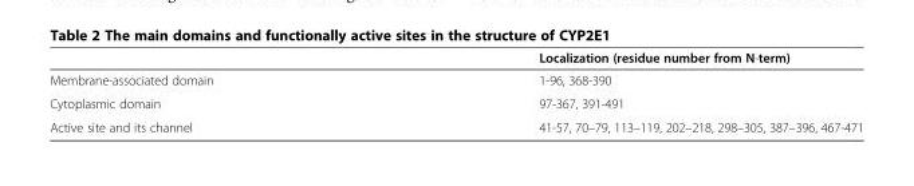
<table><thead><tr><td></td><td>Localization (residue number from N-term)</td></tr></thead><tbody><tr><td>Membrane-associated domain</td><td>1-96, 368-390</td></tr><tr><td>Cytoplasmic domain</td><td>97-367, 391-491</td></tr><tr><td>Active site and its channel</td><td>41-57, 70–79, 113–119, 202–218, 298–305, 387–396, 467-471</td></tr></tbody></table>